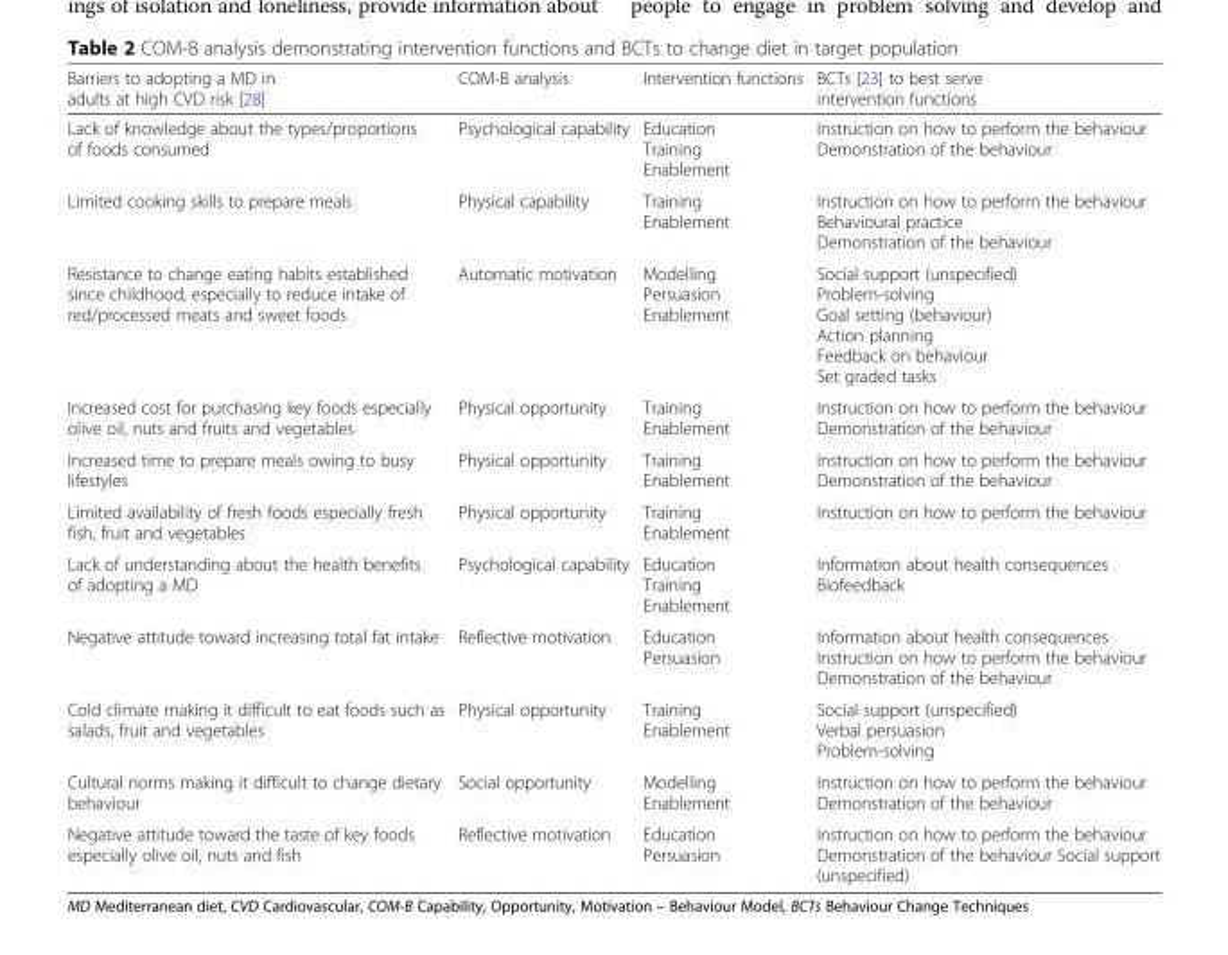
<table><thead><tr><td>Barriers to adopting a MD in adults at high CVD risk [28]</td><td>COM-B analysis</td><td>Intervention functions</td><td>BCTs [23] to best serve intervention functions</td></tr></thead><tbody><tr><td>Lack of knowledge about the types/proportions of foods consumed</td><td>Psychological capability</td><td>Education Training Enablement</td><td>Instruction on how to perform the behaviour Demonstration of the behaviour</td></tr><tr><td>Limited cooking skills to prepare meals</td><td>Physical capability</td><td>Training Enablement</td><td>Instruction on how to perform the behaviour Behavioural practice Demonstration of the behaviour</td></tr><tr><td>Resistance to change eating habits established since childhood, especially to reduce intake of red/processed meats and sweet foods</td><td>Automatic motivation</td><td>Modelling Persuasion Enablement</td><td>Social support (unspecified) Problem-solving Goal setting (behaviour) Action planning Feedback on behaviour Set graded tasks</td></tr><tr><td>Increased cost for purchasing key foods especially olive oil, nuts and fruits and vegetables</td><td>Physical opportunity</td><td>Training Enablement</td><td>Instruction on how to perform the behaviour Demonstration of the behaviour</td></tr><tr><td>Increased time to prepare meals owing to busy lifestyles</td><td>Physical opportunity</td><td>Training Enablement</td><td>Instruction on how to perform the behaviour Demonstration of the behaviour</td></tr><tr><td>Limited availability of fresh foods especially fresh fish, fruit and vegetables</td><td>Physical opportunity</td><td>Training Enablement</td><td>Instruction on how to perform the behaviour</td></tr><tr><td>Lack of understanding about the health benefits of adopting a MD</td><td>Psychological capability</td><td>Education Training Enablement</td><td>Information about health consequences Biofeedback</td></tr><tr><td>Negative attitude toward increasing total fat intake</td><td>Reflective motivation</td><td>Education Persuasion</td><td>Information about health consequences Instruction on how to perform the behaviour Demonstration of the behaviour</td></tr><tr><td>Cold climate making it difficult to eat foods such as salads, fruit and vegetables</td><td>Physical opportunity</td><td>Training Enablement</td><td>Social support (unspecified) Verbal persuasion Problem-solving</td></tr><tr><td>Cultural norms making it difficult to change dietary behaviour</td><td>Social opportunity</td><td>Modelling Enablement</td><td>Instruction on how to perform the behaviour Demonstration of the behaviour</td></tr><tr><td>Negative attitude toward the taste of key foods especially olive oil, nuts and fish</td><td>Reflective motivation</td><td>Education Persuasion</td><td>Instruction on how to perform the behaviour Demonstration of the behaviour Social support (unspecified)</td></tr></tbody></table>